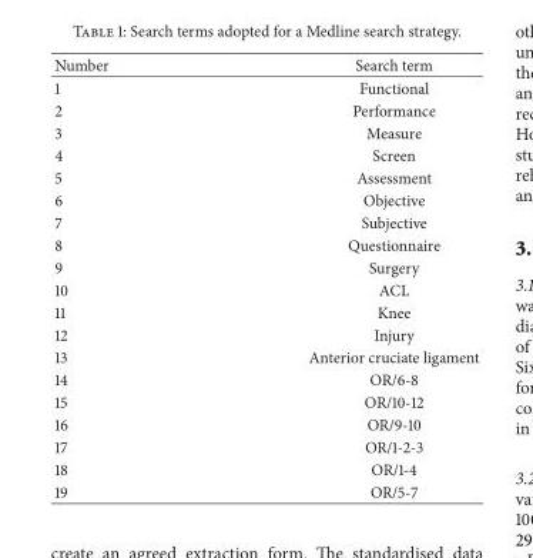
<table><thead><tr><td>Number</td><td>Search term</td></tr></thead><tbody><tr><td>1</td><td>Functional</td></tr><tr><td>2</td><td>Performance</td></tr><tr><td>3</td><td>Measure</td></tr><tr><td>4</td><td>Screen</td></tr><tr><td>5</td><td>Assessment</td></tr><tr><td>6</td><td>Objective</td></tr><tr><td>7</td><td>Subjective</td></tr><tr><td>8</td><td>Questionnaire</td></tr><tr><td>9</td><td>Surgery</td></tr><tr><td>10</td><td>ACL</td></tr><tr><td>11</td><td>Knee</td></tr><tr><td>12</td><td>Injury</td></tr><tr><td>13</td><td>Anterior cruciate ligament</td></tr><tr><td>14</td><td>OR/6-8</td></tr><tr><td>15</td><td>OR/10-12</td></tr><tr><td>16</td><td>OR/9-10</td></tr><tr><td>17</td><td>OR/1-2-3</td></tr><tr><td>18</td><td>OR/1-4</td></tr><tr><td>19</td><td>OR/5-7</td></tr></tbody></table>